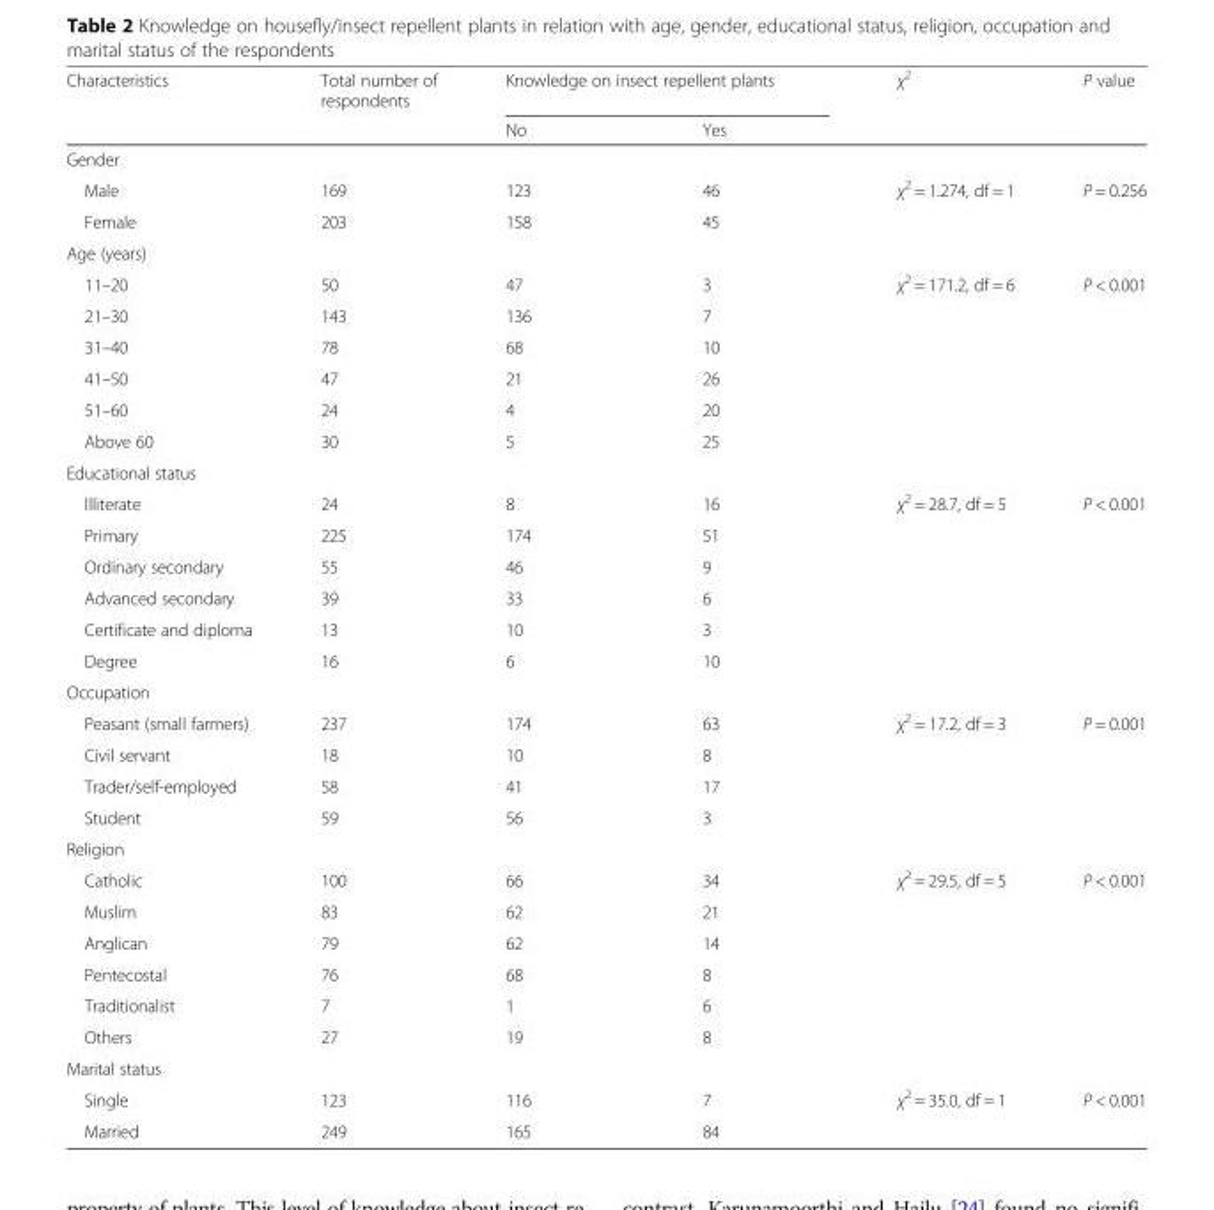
<table><thead><tr><td rowspan="2">Characteristics</td><td rowspan="2">Total number of respondents</td><td colspan="2">Knowledge on insect repellent plants</td><td rowspan="2">χ<sup>2</sup></td><td rowspan="2">P value</td></tr><tr><td>No</td><td>Yes</td></tr></thead><tbody><tr><td colspan="6">Gender</td></tr><tr><td>Male</td><td>169</td><td>123</td><td>46</td><td>χ<sup>2</sup> = 1.274, df = 1</td><td>P = 0.256</td></tr><tr><td>Female</td><td>203</td><td>158</td><td>45</td><td></td><td></td></tr><tr><td colspan="6">Age (years)</td></tr><tr><td>11–20</td><td>50</td><td>47</td><td>3</td><td>χ<sup>2</sup> = 171.2, df = 6</td><td>P &lt; 0.001</td></tr><tr><td>21–30</td><td>143</td><td>136</td><td>7</td><td></td><td></td></tr><tr><td>31–40</td><td>78</td><td>68</td><td>10</td><td></td><td></td></tr><tr><td>41–50</td><td>47</td><td>21</td><td>26</td><td></td><td></td></tr><tr><td>51–60</td><td>24</td><td>4</td><td>20</td><td></td><td></td></tr><tr><td>Above 60</td><td>30</td><td>5</td><td>25</td><td></td><td></td></tr><tr><td colspan="6">Educational status</td></tr><tr><td>Illiterate</td><td>24</td><td>8</td><td>16</td><td>χ<sup>2</sup> = 28.7, df = 5</td><td>P &lt; 0.001</td></tr><tr><td>Primary</td><td>225</td><td>174</td><td>51</td><td></td><td></td></tr><tr><td>Ordinary secondary</td><td>55</td><td>46</td><td>9</td><td></td><td></td></tr><tr><td>Advanced secondary</td><td>39</td><td>33</td><td>6</td><td></td><td></td></tr><tr><td>Certificate and diploma</td><td>13</td><td>10</td><td>3</td><td></td><td></td></tr><tr><td>Degree</td><td>16</td><td>6</td><td>10</td><td></td><td></td></tr><tr><td colspan="6">Occupation</td></tr><tr><td>Peasant (small farmers)</td><td>237</td><td>174</td><td>63</td><td>χ<sup>2</sup> = 17.2, df = 3</td><td>P = 0.001</td></tr><tr><td>Civil servant</td><td>18</td><td>10</td><td>8</td><td></td><td></td></tr><tr><td>Trader/self-employed</td><td>58</td><td>41</td><td>17</td><td></td><td></td></tr><tr><td>Student</td><td>59</td><td>56</td><td>3</td><td></td><td></td></tr><tr><td colspan="6">Religion</td></tr><tr><td>Catholic</td><td>100</td><td>66</td><td>34</td><td>χ<sup>2</sup> = 29.5, df = 5</td><td>P &lt; 0.001</td></tr><tr><td>Muslim</td><td>83</td><td>62</td><td>21</td><td></td><td></td></tr><tr><td>Anglican</td><td>79</td><td>62</td><td>14</td><td></td><td></td></tr><tr><td>Pentecostal</td><td>76</td><td>68</td><td>8</td><td></td><td></td></tr><tr><td>Traditionalist</td><td>7</td><td>1</td><td>6</td><td></td><td></td></tr><tr><td>Others</td><td>27</td><td>19</td><td>8</td><td></td><td></td></tr><tr><td colspan="6">Marital status</td></tr><tr><td>Single</td><td>123</td><td>116</td><td>7</td><td>χ<sup>2</sup> = 35.0, df = 1</td><td>P &lt; 0.001</td></tr><tr><td>Married</td><td>249</td><td>165</td><td>84</td><td></td><td></td></tr></tbody></table>